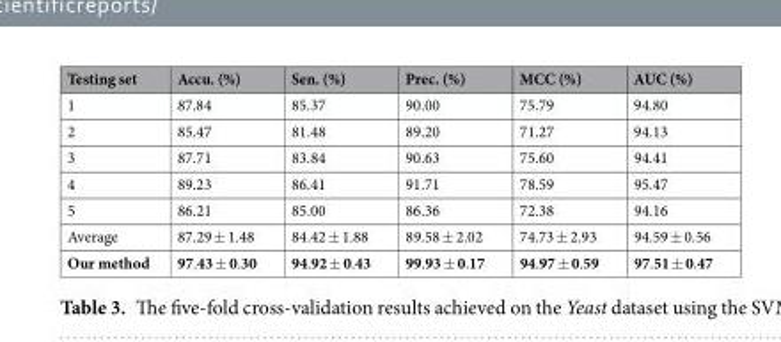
<table><thead><tr><td>Testing set</td><td>Accu. (%)</td><td>Sen. (%)</td><td>Prec. (%)</td><td>MCC (%)</td><td>AUC (%)</td></tr></thead><tbody><tr><td>1</td><td>87.84</td><td>85.37</td><td>90.00</td><td>75.79</td><td>94.80</td></tr><tr><td>2</td><td>85.47</td><td>81.48</td><td>89.20</td><td>71.27</td><td>94.13</td></tr><tr><td>3</td><td>87.71</td><td>83.84</td><td>90.63</td><td>75.60</td><td>94.41</td></tr><tr><td>4</td><td>89.23</td><td>86.41</td><td>91.71</td><td>78.59</td><td>95.47</td></tr><tr><td>5</td><td>86.21</td><td>85.00</td><td>86.36</td><td>72.38</td><td>94.16</td></tr><tr><td>Average</td><td>87.29 ± 1.48</td><td>84.42 ± 1.88</td><td>89.58 ± 2.02</td><td>74.73 ± 2.93</td><td>94.59 ± 0.56</td></tr><tr><td>Our method</td><td>97.43 ± 0.30</td><td>94.92 ± 0.43</td><td>99.93 ± 0.17</td><td>94.97 ± 0.59</td><td>97.51 ± 0.47</td></tr></tbody></table>